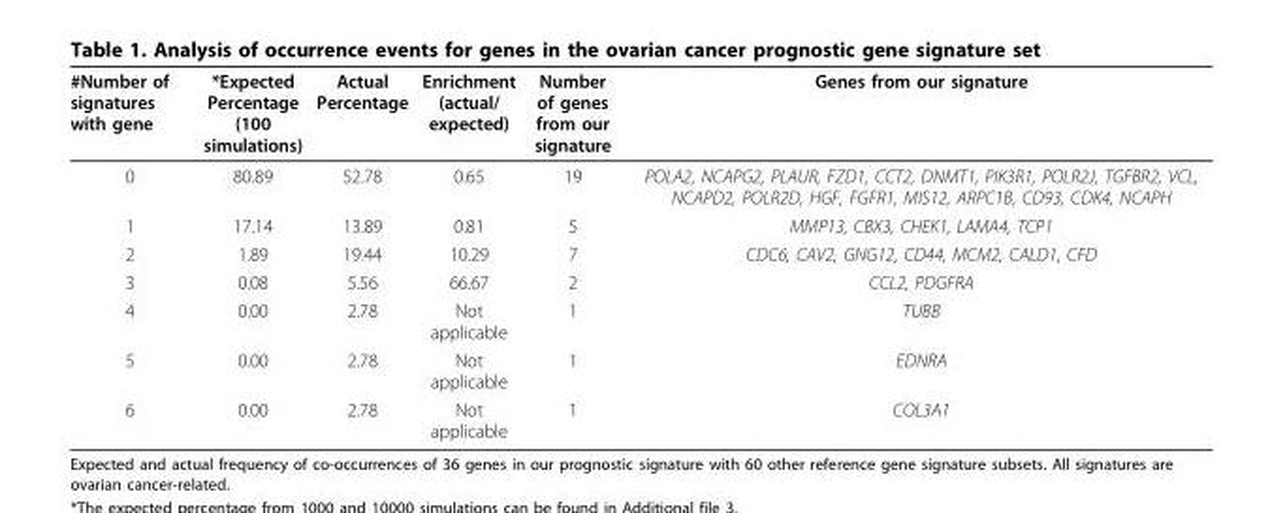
<table><thead><tr><td>#Number of signatures with gene</td><td>*Expected Percentage (100 simulations)</td><td>Actual Percentage</td><td>Enrichment (actual/ expected)</td><td>Number of genes from our signature</td><td>Genes from our signature</td></tr></thead><tbody><tr><td>0</td><td>80.89</td><td>52.78</td><td>0.65</td><td>19</td><td>POLA2, NCAPG2, PLAUR, FZD1, CCT2, DNMT1, PIK3R1, POLR2J, TGFBR2, VCL, NCAPD2, POLR2D, HGF, FGFR1, MIS12, ARPC1B, CD93, CDK4, NCAPH</td></tr><tr><td>1</td><td>17.14</td><td>13.89</td><td>0.81</td><td>5</td><td>MMP13, CBX3, CHEK1, LAMA4, TCP1</td></tr><tr><td>2</td><td>1.89</td><td>19.44</td><td>10.29</td><td>7</td><td>CDC6, CAV2, GNG12, CD44, MCM2, CALD1, CFD</td></tr><tr><td>3</td><td>0.08</td><td>5.56</td><td>66.67</td><td>2</td><td>CCL2, PDGFRA</td></tr><tr><td>4</td><td>0.00</td><td>2.78</td><td>Not applicable</td><td>1</td><td>TUBB</td></tr><tr><td>5</td><td>0.00</td><td>2.78</td><td>Not applicable</td><td>1</td><td>EDNRA</td></tr><tr><td>6</td><td>0.00</td><td>2.78</td><td>Not applicable</td><td>1</td><td>COL3A1</td></tr></tbody></table>